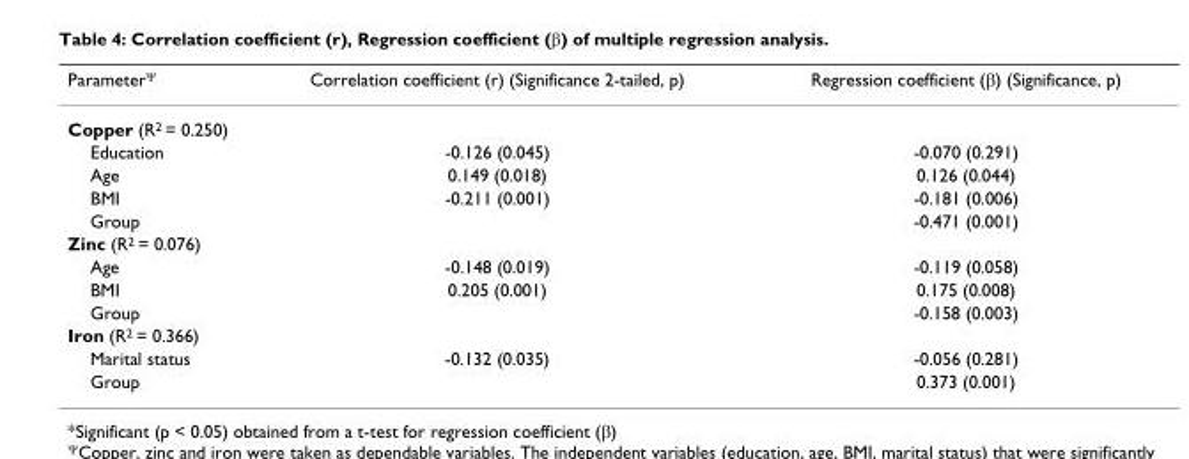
<table><thead><tr><td>Parameter<sup>Ψ</sup></td><td>Correlation coefficient (r) (Significance 2-tailed, p)</td><td>Regression coefficient (β) (Significance, p)</td></tr></thead><tbody><tr><td colspan="3">Copper (R<sup>2</sup> = 0.250)</td></tr><tr><td>Education</td><td>-0.126 (0.045)</td><td>-0.070 (0.291)</td></tr><tr><td>Age</td><td>0.149 (0.018)</td><td>0.126 (0.044)</td></tr><tr><td>BMI</td><td>-0.211 (0.001)</td><td>-0.181 (0.006)</td></tr><tr><td>Group</td><td></td><td>-0.471 (0.001)</td></tr><tr><td colspan="3">Zinc (R<sup>2</sup> = 0.076)</td></tr><tr><td>Age</td><td>-0.148 (0.019)</td><td>-0.119 (0.058)</td></tr><tr><td>BMI</td><td>0.205 (0.001)</td><td>0.175 (0.008)</td></tr><tr><td>Group</td><td></td><td>-0.158 (0.003)</td></tr><tr><td colspan="3">Iron (R<sup>2</sup> = 0.366)</td></tr><tr><td>Marital status</td><td>-0.132 (0.035)</td><td>-0.056 (0.281)</td></tr><tr><td>Group</td><td></td><td>0.373 (0.001)</td></tr></tbody></table>